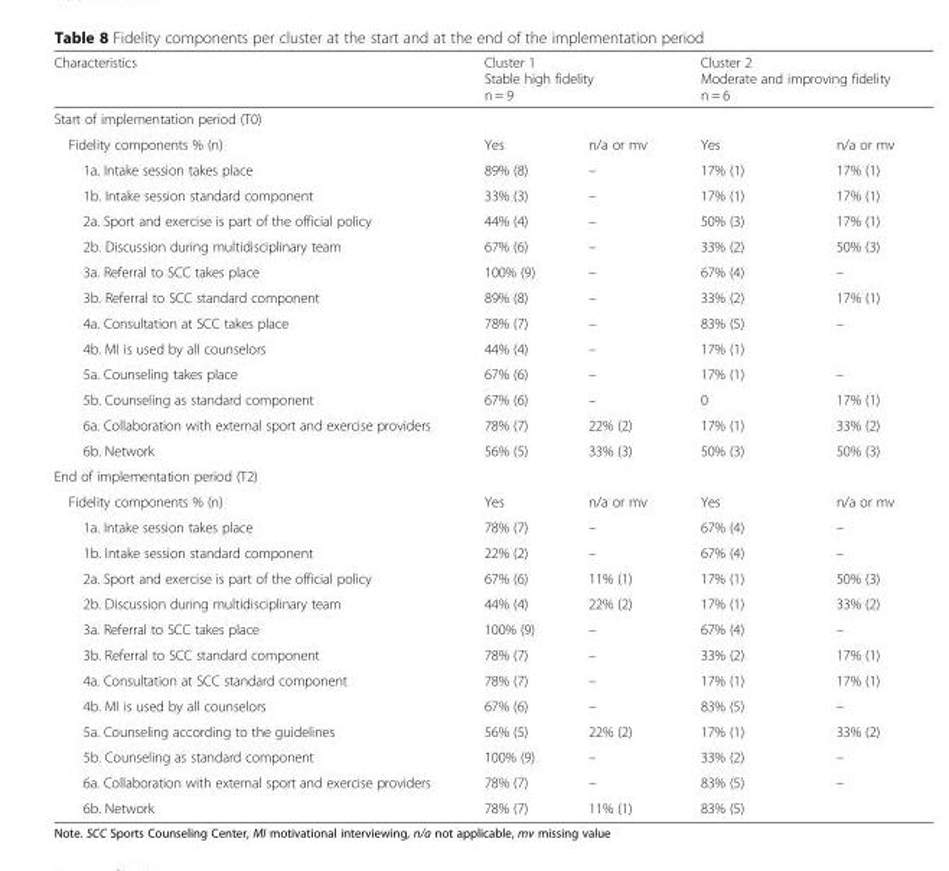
<table><thead><tr><td>Characteristics</td><td colspan="2">Cluster 1 Stable high fidelity n = 9</td><td colspan="2">Cluster 2 Moderate and improving fidelity n = 6</td></tr><tr><td colspan="5">Start of implementation period (T0)</td></tr><tr><td>Fidelity components % (n)</td><td>Yes</td><td>n/a or mv</td><td>Yes</td><td>n/a or mv</td></tr></thead><tbody><tr><td>1a. Intake session takes place</td><td>89% (8)</td><td>–</td><td>17% (1)</td><td>17% (1)</td></tr><tr><td>1b. Intake session standard component</td><td>33% (3)</td><td>–</td><td>17% (1)</td><td>17% (1)</td></tr><tr><td>2a. Sport and exercise is part of the official policy</td><td>44% (4)</td><td>–</td><td>50% (3)</td><td>17% (1)</td></tr><tr><td>2b. Discussion during multidisciplinary team</td><td>67% (6)</td><td>–</td><td>33% (2)</td><td>50% (3)</td></tr><tr><td>3a. Referral to SCC takes place</td><td>100% (9)</td><td>–</td><td>67% (4)</td><td>–</td></tr><tr><td>3b. Referral to SCC standard component</td><td>89% (8)</td><td>–</td><td>33% (2)</td><td>17% (1)</td></tr><tr><td>4a. Consultation at SCC takes place</td><td>78% (7)</td><td>–</td><td>83% (5)</td><td>–</td></tr><tr><td>4b. MI is used by all counselors</td><td>44% (4)</td><td>–</td><td>17% (1)</td><td></td></tr><tr><td>5a. Counseling takes place</td><td>67% (6)</td><td>–</td><td>17% (1)</td><td>–</td></tr><tr><td>5b. Counseling as standard component</td><td>67% (6)</td><td>–</td><td>0</td><td>17% (1)</td></tr><tr><td>6a. Collaboration with external sport and exercise providers</td><td>78% (7)</td><td>22% (2)</td><td>17% (1)</td><td>33% (2)</td></tr><tr><td>6b. Network</td><td>56% (5)</td><td>33% (3)</td><td>50% (3)</td><td>50% (3)</td></tr><tr><td colspan="5">End of implementation period (T2)</td></tr><tr><td>Fidelity components % (n)</td><td>Yes</td><td>n/a or mv</td><td>Yes</td><td>n/a or mv</td></tr><tr><td>1a. Intake session takes place</td><td>78% (7)</td><td>–</td><td>67% (4)</td><td>–</td></tr><tr><td>1b. Intake session standard component</td><td>22% (2)</td><td>–</td><td>67% (4)</td><td>–</td></tr><tr><td>2a. Sport and exercise is part of the official policy</td><td>67% (6)</td><td>11% (1)</td><td>17% (1)</td><td>50% (3)</td></tr><tr><td>2b. Discussion during multidisciplinary team</td><td>44% (4)</td><td>22% (2)</td><td>17% (1)</td><td>33% (2)</td></tr><tr><td>3a. Referral to SCC takes place</td><td>100% (9)</td><td>–</td><td>67% (4)</td><td>–</td></tr><tr><td>3b. Referral to SCC standard component</td><td>78% (7)</td><td>–</td><td>33% (2)</td><td>17% (1)</td></tr><tr><td>4a. Consultation at SCC standard component</td><td>78% (7)</td><td>–</td><td>17% (1)</td><td>17% (1)</td></tr><tr><td>4b. MI is used by all counselors</td><td>67% (6)</td><td>–</td><td>83% (5)</td><td>–</td></tr><tr><td>5a. Counseling according to the guidelines</td><td>56% (5)</td><td>22% (2)</td><td>17% (1)</td><td>33% (2)</td></tr><tr><td>5b. Counseling as standard component</td><td>100% (9)</td><td>–</td><td>33% (2)</td><td>–</td></tr><tr><td>6a. Collaboration with external sport and exercise providers</td><td>78% (7)</td><td>–</td><td>83% (5)</td><td>–</td></tr><tr><td>6b. Network</td><td>78% (7)</td><td>11% (1)</td><td>83% (5)</td><td></td></tr></tbody></table>